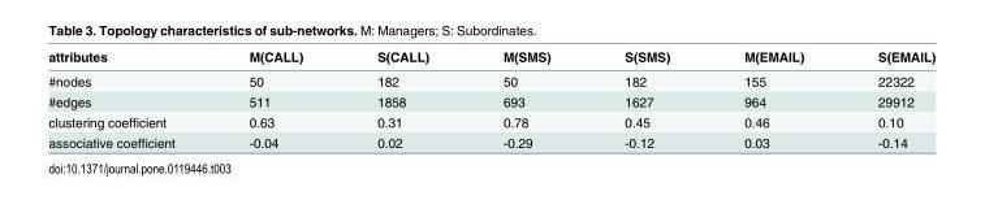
<table><thead><tr><td>attributes</td><td>M(CALL)</td><td>S(CALL)</td><td>M(SMS)</td><td>S(SMS)</td><td>M(EMAIL)</td><td>S(EMAIL)</td></tr></thead><tbody><tr><td>#nodes</td><td>50</td><td>182</td><td>50</td><td>182</td><td>155</td><td>22322</td></tr><tr><td>#edges</td><td>511</td><td>1858</td><td>693</td><td>1627</td><td>964</td><td>29912</td></tr><tr><td>clustering coefficient</td><td>0.63</td><td>0.31</td><td>0.78</td><td>0.45</td><td>0.46</td><td>0.10</td></tr><tr><td>associative coefficient</td><td>-0.04</td><td>0.02</td><td>-0.29</td><td>-0.12</td><td>0.03</td><td>-0.14</td></tr></tbody></table>